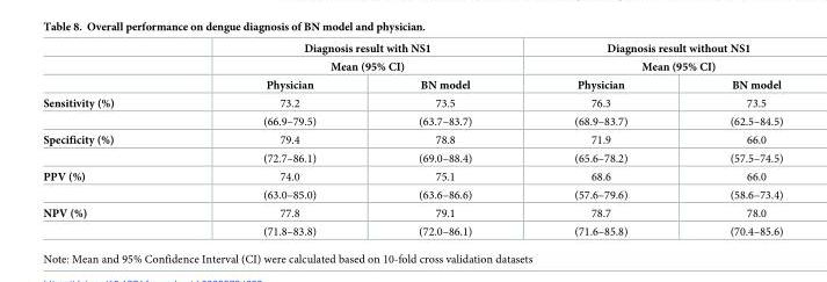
<table><thead><tr><td rowspan="3"></td><td rowspan="2" colspan="2">Diagnosis result with NS1 Mean (95% CI)</td><td rowspan="2" colspan="2">Diagnosis result without NS1 Mean (95% CI)</td></tr><tr></tr><tr><td>Physician</td><td>BN model</td><td>Physician</td><td>BN model</td></tr></thead><tbody><tr><td rowspan="2">Sensitivity (%)</td><td>73.2</td><td>73.5</td><td>76.3</td><td>73.5</td></tr><tr><td>(66.9–79.5)</td><td>(63.7–83.7)</td><td>(68.9–83.7)</td><td>(62.5–84.5)</td></tr><tr><td rowspan="2">Specificity (%)</td><td>79.4</td><td>78.8</td><td>71.9</td><td>66.0</td></tr><tr><td>(72.7–86.1)</td><td>(69.0–88.4)</td><td>(65.6–78.2)</td><td>(57.5–74.5)</td></tr><tr><td rowspan="2">PPV (%)</td><td>74.0</td><td>75.1</td><td>68.6</td><td>66.0</td></tr><tr><td>(63.0–85.0)</td><td>(63.6–86.6)</td><td>(57.6–79.6)</td><td>(58.6–73.4)</td></tr><tr><td rowspan="2">NPV (%)</td><td>77.8</td><td>79.1</td><td>78.7</td><td>78.0</td></tr><tr><td>(71.8–83.8)</td><td>(72.0–86.1)</td><td>(71.6–85.8)</td><td>(70.4–85.6)</td></tr></tbody></table>